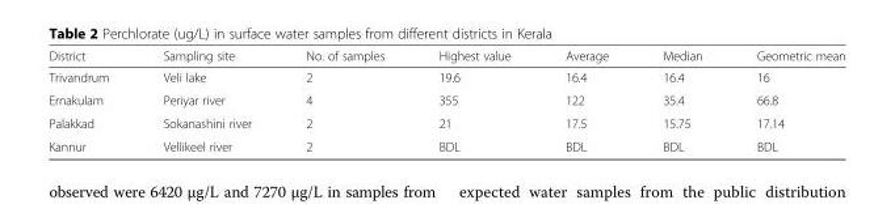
<table><thead><tr><td>District</td><td>Sampling site</td><td>No. of samples</td><td>Highest value</td><td>Average</td><td>Median</td><td>Geometric mean</td></tr></thead><tbody><tr><td>Trivandrum</td><td>Veli lake</td><td>2</td><td>19.6</td><td>16.4</td><td>16.4</td><td>16</td></tr><tr><td>Ernakulam</td><td>Periyar river</td><td>4</td><td>355</td><td>122</td><td>35.4</td><td>66.8</td></tr><tr><td>Palakkad</td><td>Sokanashini river</td><td>2</td><td>21</td><td>17.5</td><td>15.75</td><td>17.14</td></tr><tr><td>Kannur</td><td>Vellikeel river</td><td>2</td><td>BDL</td><td>BDL</td><td>BDL</td><td>BDL</td></tr></tbody></table>